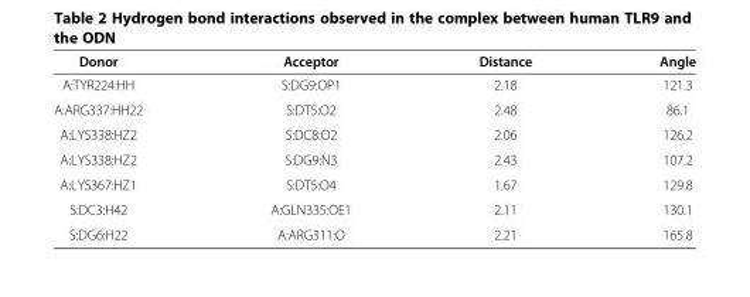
<table><thead><tr><td>Donor</td><td>Acceptor</td><td>Distance</td><td>Angle</td></tr></thead><tbody><tr><td>A:TYR224:HH</td><td>S:DG9:OP1</td><td>2.18</td><td>121.3</td></tr><tr><td>A:ARG337:HH22</td><td>S:DT5:O2</td><td>2.48</td><td>86.1</td></tr><tr><td>A:LYS338:HZ2</td><td>S:DC8:O2</td><td>2.06</td><td>126.2</td></tr><tr><td>A:LYS338:HZ2</td><td>S:DG9:N3</td><td>2.43</td><td>107.2</td></tr><tr><td>A:LYS367:HZ1</td><td>S:DT5:O4</td><td>1.67</td><td>129.8</td></tr><tr><td>S:DC3:H42</td><td>A:GLN335:OE1</td><td>2.11</td><td>130.1</td></tr><tr><td>S:DG6:H22</td><td>A:ARG311:O</td><td>2.21</td><td>165.8</td></tr></tbody></table>